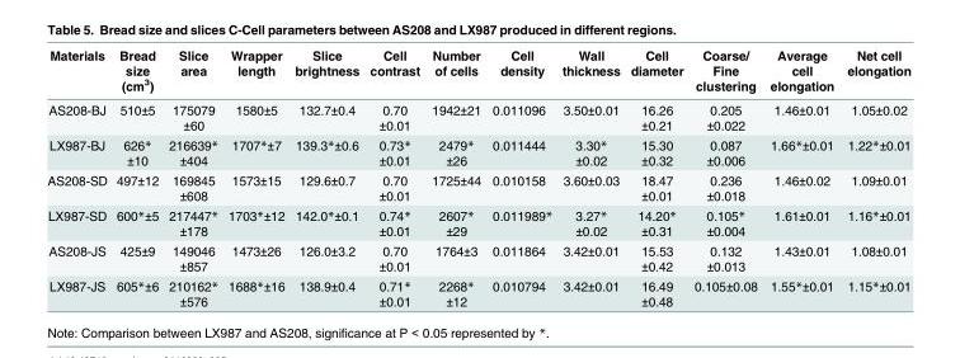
<table><thead><tr><td>Materials</td><td>Bread size (cm<sup>3</sup>)</td><td>Slice area</td><td>Wrapper length</td><td>Slice brightness</td><td>Cell contrast</td><td>Number of cells</td><td>Cell density</td><td>Wall thickness</td><td>Cell diameter</td><td>Coarse/ Fine clustering</td><td>Average cell elongation</td><td>Net cell elongation</td></tr></thead><tbody><tr><td>AS208-BJ</td><td>510±5</td><td>175079 ±60</td><td>1580±5</td><td>132.7±0.4</td><td>0.70 ±0.01</td><td>1942±21</td><td>0.011096</td><td>3.50±0.01</td><td>16.26 ±0.21</td><td>0.205 ±0.022</td><td>1.46±0.01</td><td>1.05±0.02</td></tr><tr><td>LX987-BJ</td><td>626* ±10</td><td>216639* ±404</td><td>1707*±7</td><td>139.3*±0.6</td><td>0.73* ±0.01</td><td>2479* ±26</td><td>0.011444</td><td>3.30* ±0.02</td><td>15.30 ±0.32</td><td>0.087 ±0.006</td><td>1.66*±0.01</td><td>1.22*±0.01</td></tr><tr><td>AS208-SD</td><td>497±12</td><td>169845 ±608</td><td>1573±15</td><td>129.6±0.7</td><td>0.70 ±0.01</td><td>1725±44</td><td>0.010158</td><td>3.60±0.03</td><td>18.47 ±0.01</td><td>0.236 ±0.018</td><td>1.46±0.02</td><td>1.09±0.01</td></tr><tr><td>LX987-SD</td><td>600*±5</td><td>217447* ±178</td><td>1703*±12</td><td>142.0*±0.1</td><td>0.74* ±0.01</td><td>2607* ±29</td><td>0.011989*</td><td>3.27* ±0.02</td><td>14.20* ±0.31</td><td>0.105* ±0.004</td><td>1.61±0.01</td><td>1.16*±0.01</td></tr><tr><td>AS208-JS</td><td>425±9</td><td>149046 ±857</td><td>1473±26</td><td>126.0±3.2</td><td>0.70 ±0.01</td><td>1764±3</td><td>0.011864</td><td>3.42±0.01</td><td>15.53 ±0.42</td><td>0.132 ±0.013</td><td>1.43±0.01</td><td>1.08±0.01</td></tr><tr><td>LX987-JS</td><td>605*±6</td><td>210162* ±576</td><td>1688*±16</td><td>138.9±0.4</td><td>0.71* ±0.01</td><td>2268* ±12</td><td>0.010794</td><td>3.42±0.01</td><td>16.49 ±0.48</td><td>0.105±0.08</td><td>1.55*±0.01</td><td>1.15*±0.01</td></tr></tbody></table>